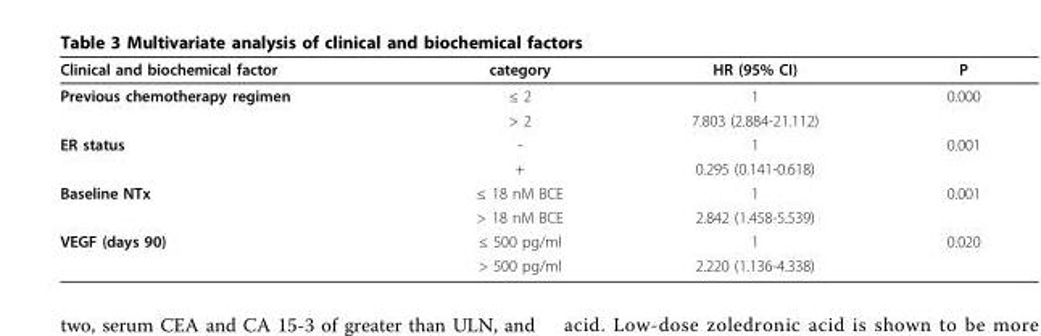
<table><thead><tr><td>Clinical and biochemical factor</td><td>category</td><td>HR (95% CI)</td><td>P</td></tr></thead><tbody><tr><td rowspan="2">Previous chemotherapy regimen</td><td>≤ 2</td><td>1</td><td>0.000</td></tr><tr><td>&gt; 2</td><td>7.803 (2.884-21.112)</td><td></td></tr><tr><td rowspan="2">ER status</td><td>-</td><td>1</td><td>0.001</td></tr><tr><td>+</td><td>0.295 (0.141-0.618)</td><td></td></tr><tr><td rowspan="2">Baseline NTx</td><td>≤ 18 nM BCE</td><td>1</td><td>0.001</td></tr><tr><td>&gt; 18 nM BCE</td><td>2.842 (1.458-5.539)</td><td></td></tr><tr><td rowspan="2">VEGF (days 90)</td><td>≤ 500 pg/ml</td><td>1</td><td>0.020</td></tr><tr><td>&gt; 500 pg/ml</td><td>2.220 (1.136-4.338)</td><td></td></tr></tbody></table>